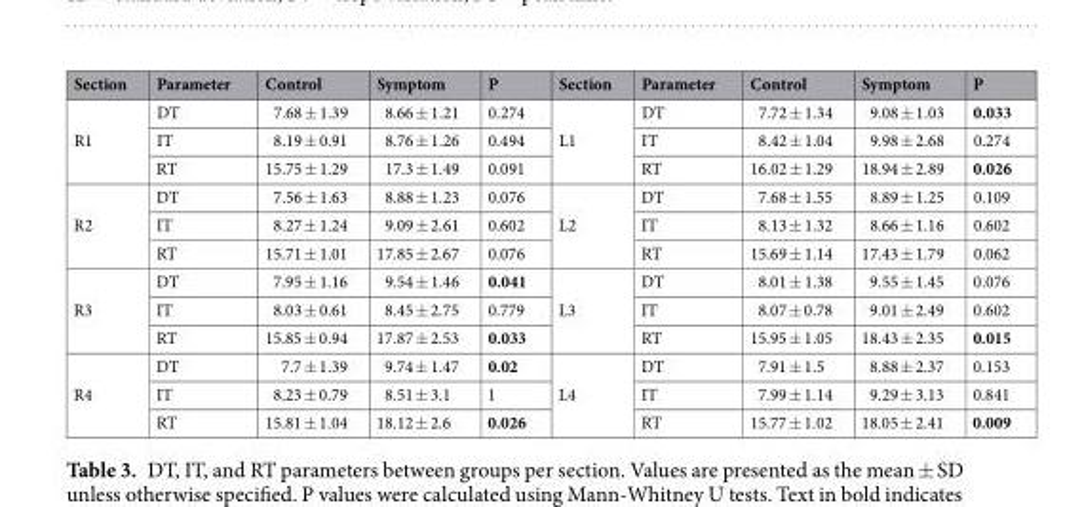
<table><thead><tr><td>Section</td><td>Parameter</td><td>Control</td><td>Symptom</td><td>P</td><td>Section</td><td>Parameter</td><td>Control</td><td>Symptom</td><td>P</td></tr></thead><tbody><tr><td rowspan="3">R1</td><td>DT</td><td>7.68 ± 1.39</td><td>8.66 ± 1.21</td><td>0.274</td><td rowspan="3">L1</td><td>DT</td><td>7.72 ± 1.34</td><td>9.08 ± 1.03</td><td>0.033</td></tr><tr><td>IT</td><td>8.19 ± 0.91</td><td>8.76 ± 1.26</td><td>0.494</td><td>IT</td><td>8.42 ± 1.04</td><td>9.98 ± 2.68</td><td>0.274</td></tr><tr><td>RT</td><td>15.75 ± 1.29</td><td>17.3 ± 1.49</td><td>0.091</td><td>RT</td><td>16.02 ± 1.29</td><td>18.94 ± 2.89</td><td>0.026</td></tr><tr><td rowspan="3">R2</td><td>DT</td><td>7.56 ± 1.63</td><td>8.88 ± 1.23</td><td>0.076</td><td rowspan="3">L2</td><td>DT</td><td>7.68 ± 1.55</td><td>8.89 ± 1.25</td><td>0.109</td></tr><tr><td>IT</td><td>8.27 ± 1.24</td><td>9.09 ± 2.61</td><td>0.602</td><td>IT</td><td>8.13 ± 1.32</td><td>8.66 ± 1.16</td><td>0.602</td></tr><tr><td>RT</td><td>15.71 ± 1.01</td><td>17.85 ± 2.67</td><td>0.076</td><td>RT</td><td>15.69 ± 1.14</td><td>17.43 ± 1.79</td><td>0.062</td></tr><tr><td rowspan="3">R3</td><td>DT</td><td>7.95 ± 1.16</td><td>9.54 ± 1.46</td><td>0.041</td><td rowspan="3">L3</td><td>DT</td><td>8.01 ± 1.38</td><td>9.55 ± 1.45</td><td>0.076</td></tr><tr><td>IT</td><td>8.03 ± 0.61</td><td>8.45 ± 2.75</td><td>0.779</td><td>IT</td><td>8.07 ± 0.78</td><td>9.01 ± 2.49</td><td>0.602</td></tr><tr><td>RT</td><td>15.85 ± 0.94</td><td>17.87 ± 2.53</td><td>0.033</td><td>RT</td><td>15.95 ± 1.05</td><td>18.43 ± 2.35</td><td>0.015</td></tr><tr><td rowspan="3">R4</td><td>DT</td><td>7.7 ± 1.39</td><td>9.74 ± 1.47</td><td>0.02</td><td rowspan="3">L4</td><td>DT</td><td>7.91 ± 1.5</td><td>8.88 ± 2.37</td><td>0.153</td></tr><tr><td>IT</td><td>8.23 ± 0.79</td><td>8.51 ± 3.1</td><td>1</td><td>IT</td><td>7.99 ± 1.14</td><td>9.29 ± 3.13</td><td>0.841</td></tr><tr><td>RT</td><td>15.81 ± 1.04</td><td>18.12 ± 2.6</td><td>0.026</td><td>RT</td><td>15.77 ± 1.02</td><td>18.05 ± 2.41</td><td>0.009</td></tr></tbody></table>